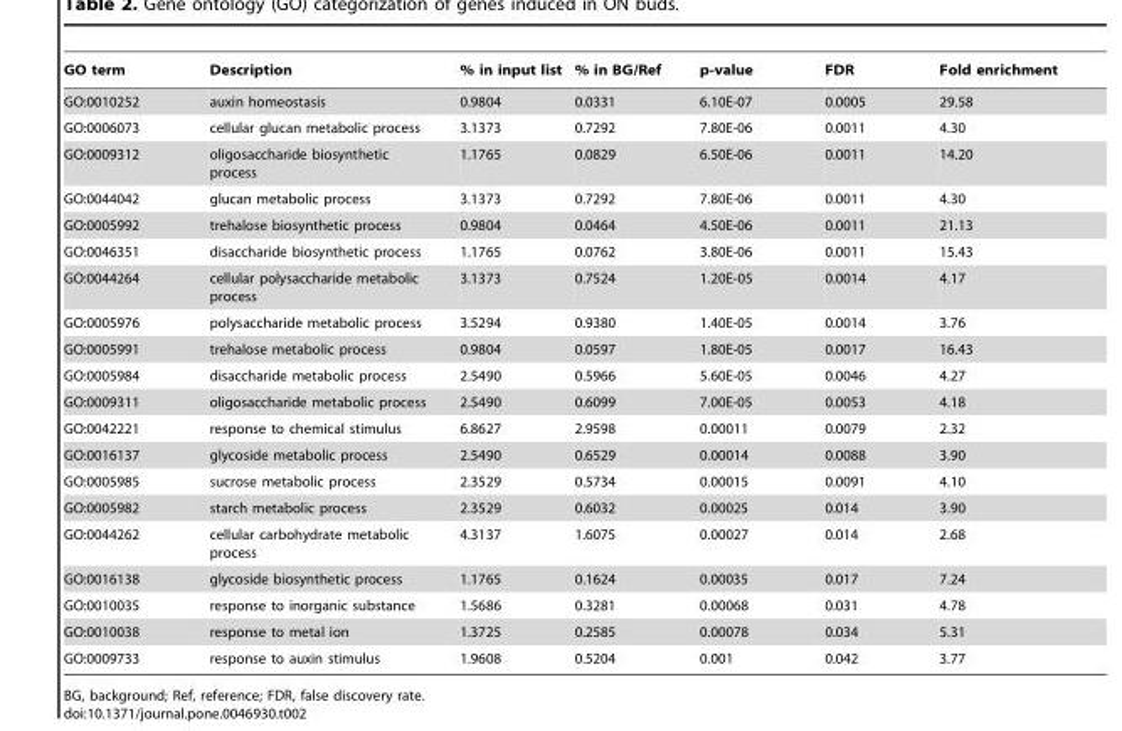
<table><thead><tr><td>GO term</td><td>Description</td><td>% in input list</td><td>% in BG/Ref</td><td>p-value</td><td>FDR</td><td>Fold enrichment</td></tr></thead><tbody><tr><td>GO:0010252</td><td>auxin homeostasis</td><td>0.9804</td><td>0.0331</td><td>6.10E-07</td><td>0.0005</td><td>29.58</td></tr><tr><td>GO:0006073</td><td>cellular glucan metabolic process</td><td>3.1373</td><td>0.7292</td><td>7.80E-06</td><td>0.0011</td><td>4.30</td></tr><tr><td>GO:0009312</td><td>oligosaccharide biosynthetic process</td><td>1.1765</td><td>0.0829</td><td>6.50E-06</td><td>0.0011</td><td>14.20</td></tr><tr><td>GO:0044042</td><td>glucan metabolic process</td><td>3.1373</td><td>0.7292</td><td>7.80E-06</td><td>0.0011</td><td>4.30</td></tr><tr><td>GO:0005992</td><td>trehalose biosynthetic process</td><td>0.9804</td><td>0.0464</td><td>4.50E-06</td><td>0.0011</td><td>21.13</td></tr><tr><td>GO:0046351</td><td>disaccharide biosynthetic process</td><td>1.1765</td><td>0.0762</td><td>3.80E-06</td><td>0.0011</td><td>15.43</td></tr><tr><td>GO:0044264</td><td>cellular polysaccharide metabolic process</td><td>3.1373</td><td>0.7524</td><td>1.20E-05</td><td>0.0014</td><td>4.17</td></tr><tr><td>GO:0005976</td><td>polysaccharide metabolic process</td><td>3.5294</td><td>0.9380</td><td>1.40E-05</td><td>0.0014</td><td>3.76</td></tr><tr><td>GO:0005991</td><td>trehalose metabolic process</td><td>0.9804</td><td>0.0597</td><td>1.80E-05</td><td>0.0017</td><td>16.43</td></tr><tr><td>GO:0005984</td><td>disaccharide metabolic process</td><td>2.5490</td><td>0.5966</td><td>5.60E-05</td><td>0.0046</td><td>4.27</td></tr><tr><td>GO:0009311</td><td>oligosaccharide metabolic process</td><td>2.5490</td><td>0.6099</td><td>7.00E-05</td><td>0.0053</td><td>4.18</td></tr><tr><td>GO:0042221</td><td>response to chemical stimulus</td><td>6.8627</td><td>2.9598</td><td>0.00011</td><td>0.0079</td><td>2.32</td></tr><tr><td>GO:0016137</td><td>glycoside metabolic process</td><td>2.5490</td><td>0.6529</td><td>0.00014</td><td>0.0088</td><td>3.90</td></tr><tr><td>GO:0005985</td><td>sucrose metabolic process</td><td>2.3529</td><td>0.5734</td><td>0.00015</td><td>0.0091</td><td>4.10</td></tr><tr><td>GO:0005982</td><td>starch metabolic process</td><td>2.3529</td><td>0.6032</td><td>0.00025</td><td>0.014</td><td>3.90</td></tr><tr><td>GO:0044262</td><td>cellular carbohydrate metabolic process</td><td>4.3137</td><td>1.6075</td><td>0.00027</td><td>0.014</td><td>2.68</td></tr><tr><td>GO:0016138</td><td>glycoside biosynthetic process</td><td>1.1765</td><td>0.1624</td><td>0.00035</td><td>0.017</td><td>7.24</td></tr><tr><td>GO:0010035</td><td>response to inorganic substance</td><td>1.5686</td><td>0.3281</td><td>0.00068</td><td>0.031</td><td>4.78</td></tr><tr><td>GO:0010038</td><td>response to metal ion</td><td>1.3725</td><td>0.2585</td><td>0.00078</td><td>0.034</td><td>5.31</td></tr><tr><td>GO:0009733</td><td>response to auxin stimulus</td><td>1.9608</td><td>0.5204</td><td>0.001</td><td>0.042</td><td>3.77</td></tr></tbody></table>